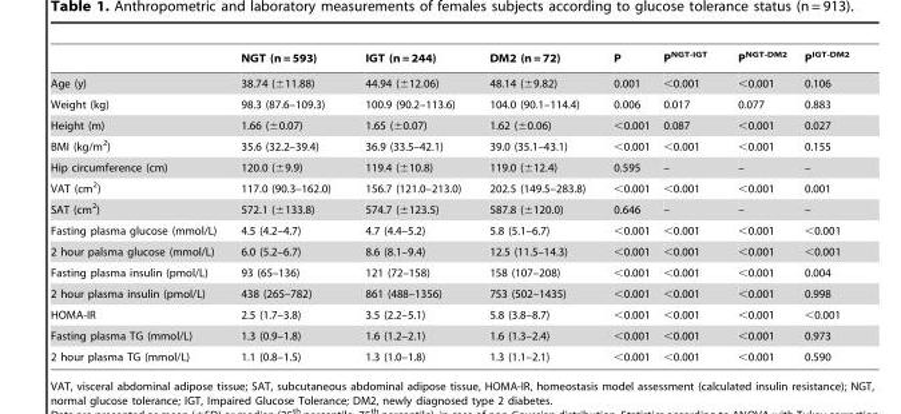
<table><thead><tr><td></td><td>NGT (n = 593)</td><td>IGT (n = 244)</td><td>DM2 (n = 72)</td><td>P</td><td>P<sup>NGT-IGT</sup></td><td>P<sup>NGT-DM2</sup></td><td>P<sup>IGT-DM2</sup></td></tr></thead><tbody><tr><td>Age (y)</td><td>38.74 (±11.88)</td><td>44.94 (±12.06)</td><td>48.14 (±9.82)</td><td>0.001</td><td>&lt;0.001</td><td>&lt;0.001</td><td>0.106</td></tr><tr><td>Weight (kg)</td><td>98.3 (87.6–109.3)</td><td>100.9 (90.2–113.6)</td><td>104.0 (90.1–114.4)</td><td>0.006</td><td>0.017</td><td>0.077</td><td>0.883</td></tr><tr><td>Height (m)</td><td>1.66 (±0.07)</td><td>1.65 (±0.07)</td><td>1.62 (±0.06)</td><td>&lt;0.001</td><td>0.087</td><td>&lt;0.001</td><td>0.027</td></tr><tr><td>BMI (kg/m<sup>2</sup>)</td><td>35.6 (32.2–39.4)</td><td>36.9 (33.5–42.1)</td><td>39.0 (35.1–43.1)</td><td>&lt;0.001</td><td>&lt;0.001</td><td>&lt;0.001</td><td>0.155</td></tr><tr><td>Hip circumference (cm)</td><td>120.0 (±9.9)</td><td>119.4 (±10.8)</td><td>119.0 (±12.4)</td><td>0.595</td><td>–</td><td>–</td><td>–</td></tr><tr><td>VAT (cm<sup>2</sup>)</td><td>117.0 (90.3–162.0)</td><td>156.7 (121.0–213.0)</td><td>202.5 (149.5–283.8)</td><td>&lt;0.001</td><td>&lt;0.001</td><td>&lt;0.001</td><td>0.001</td></tr><tr><td>SAT (cm<sup>2</sup>)</td><td>572.1 (±133.8)</td><td>574.7 (±123.5)</td><td>587.8 (±120.0)</td><td>0.646</td><td>–</td><td>–</td><td>–</td></tr><tr><td>Fasting plasma glucose (mmol/L)</td><td>4.5 (4.2–4.7)</td><td>4.7 (4.4–5.2)</td><td>5.8 (5.1–6.7)</td><td>&lt;0.001</td><td>&lt;0.001</td><td>&lt;0.001</td><td>&lt;0.001</td></tr><tr><td>2 hour palsma glucose (mmol/L)</td><td>6.0 (5.2–6.7)</td><td>8.6 (8.1–9.4)</td><td>12.5 (11.5–14.3)</td><td>&lt;0.001</td><td>&lt;0.001</td><td>&lt;0.001</td><td>&lt;0.001</td></tr><tr><td>Fasting plasma insulin (pmol/L)</td><td>93 (65–136)</td><td>121 (72–158)</td><td>158 (107–208)</td><td>&lt;0.001</td><td>&lt;0.001</td><td>&lt;0.001</td><td>0.004</td></tr><tr><td>2 hour plasma insulin (pmol/L)</td><td>438 (265–782)</td><td>861 (488–1356)</td><td>753 (502–1435)</td><td>&lt;0.001</td><td>&lt;0.001</td><td>&lt;0.001</td><td>0.998</td></tr><tr><td>HOMA-IR</td><td>2.5 (1.7–3.8)</td><td>3.5 (2.2–5.1)</td><td>5.8 (3.8–8.7)</td><td>&lt;0.001</td><td>&lt;0.001</td><td>&lt;0.001</td><td>&lt;0.001</td></tr><tr><td>Fasting plasma TG (mmol/L)</td><td>1.3 (0.9–1.8)</td><td>1.6 (1.2–2.1)</td><td>1.6 (1.3–2.4)</td><td>&lt;0.001</td><td>&lt;0.001</td><td>&lt;0.001</td><td>0.973</td></tr><tr><td>2 hour plasma TG (mmol/L)</td><td>1.1 (0.8–1.5)</td><td>1.3 (1.0–1.8)</td><td>1.3 (1.1–2.1)</td><td>&lt;0.001</td><td>&lt;0.001</td><td>&lt;0.001</td><td>0.590</td></tr></tbody></table>